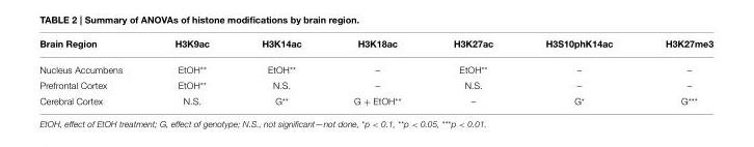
<table><thead><tr><td>Brain Region</td><td>H3K9ac</td><td>H3K14ac</td><td>H3K18ac</td><td>H3K27ac</td><td>H3S10phK14ac</td><td>H3K27me3</td></tr></thead><tbody><tr><td>Nucleus Accumbens</td><td>EtOH**</td><td>EtOH**</td><td>–</td><td>EtOH**</td><td>–</td><td>–</td></tr><tr><td>Prefrontal Cortex</td><td>EtOH**</td><td>N.S.</td><td>–</td><td>N.S.</td><td>–</td><td>–</td></tr><tr><td>Cerebral Cortex</td><td>N.S.</td><td>G**</td><td>G + EtOH**</td><td>–</td><td>G*</td><td>G***</td></tr></tbody></table>